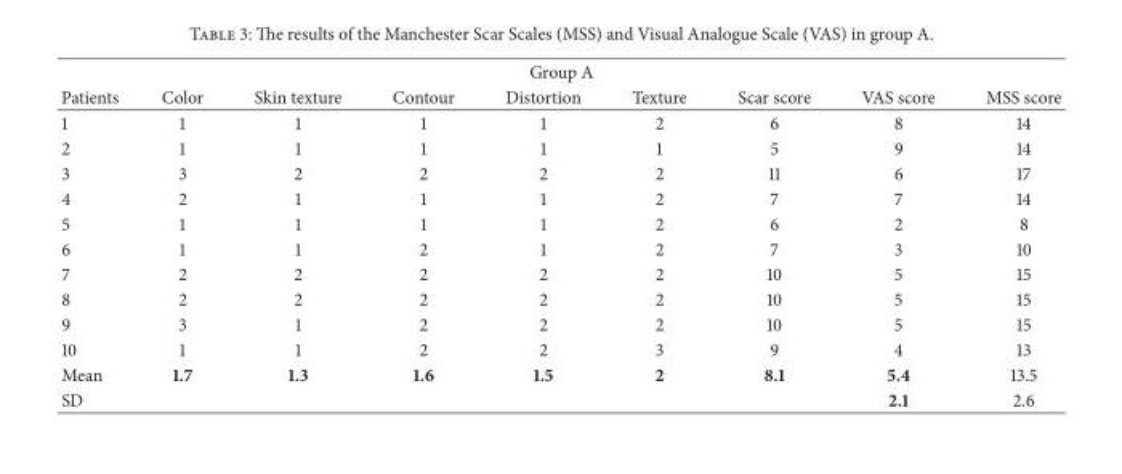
<table><thead><tr><td colspan="9">Group A</td></tr><tr><td>Patients</td><td>Color</td><td>Skin texture</td><td>Contour</td><td>Distortion</td><td>Texture</td><td>Scar score</td><td>VAS score</td><td>MSS score</td></tr></thead><tbody><tr><td>1</td><td>1</td><td>1</td><td>1</td><td>1</td><td>2</td><td>6</td><td>8</td><td>14</td></tr><tr><td>2</td><td>1</td><td>1</td><td>1</td><td>1</td><td>1</td><td>5</td><td>9</td><td>14</td></tr><tr><td>3</td><td>3</td><td>2</td><td>2</td><td>2</td><td>2</td><td>11</td><td>6</td><td>17</td></tr><tr><td>4</td><td>2</td><td>1</td><td>1</td><td>1</td><td>2</td><td>7</td><td>7</td><td>14</td></tr><tr><td>5</td><td>1</td><td>1</td><td>1</td><td>1</td><td>2</td><td>6</td><td>2</td><td>8</td></tr><tr><td>6</td><td>1</td><td>1</td><td>2</td><td>1</td><td>2</td><td>7</td><td>3</td><td>10</td></tr><tr><td>7</td><td>2</td><td>2</td><td>2</td><td>2</td><td>2</td><td>10</td><td>5</td><td>15</td></tr><tr><td>8</td><td>2</td><td>2</td><td>2</td><td>2</td><td>2</td><td>10</td><td>5</td><td>15</td></tr><tr><td>9</td><td>3</td><td>1</td><td>2</td><td>2</td><td>2</td><td>10</td><td>5</td><td>15</td></tr><tr><td>10</td><td>1</td><td>1</td><td>2</td><td>2</td><td>3</td><td>9</td><td>4</td><td>13</td></tr><tr><td>Mean</td><td>1.7</td><td>1.3</td><td>1.6</td><td>1.5</td><td>2</td><td>8.1</td><td>5.4</td><td>13.5</td></tr><tr><td>SD</td><td></td><td></td><td></td><td></td><td></td><td></td><td>2.1</td><td>2.6</td></tr></tbody></table>